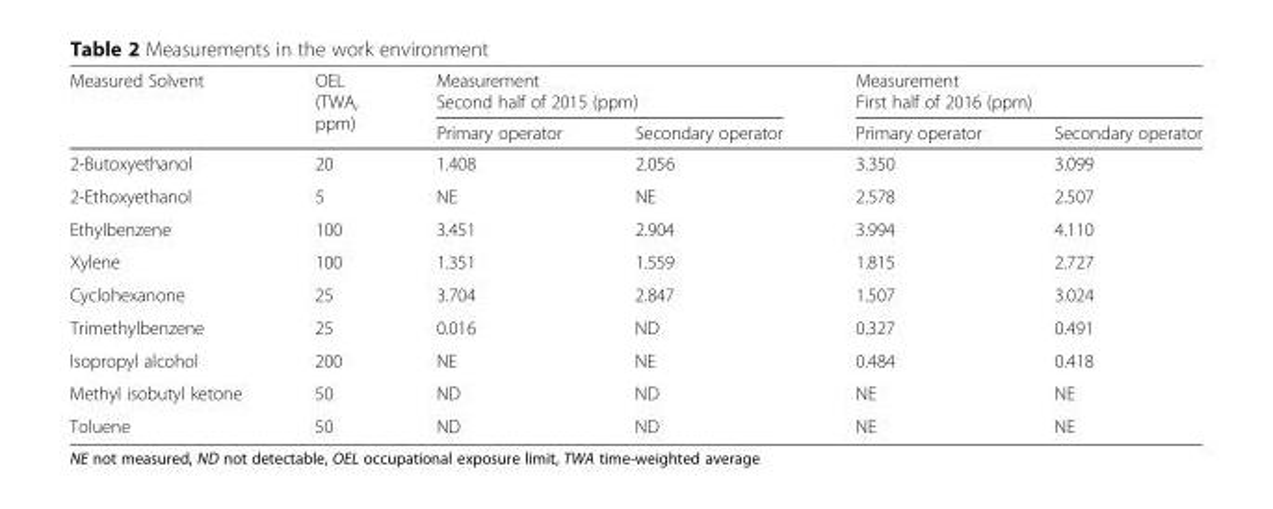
<table><thead><tr><td rowspan="2">Measured Solvent</td><td rowspan="2">OEL (TWA, ppm)</td><td colspan="2">Measurement Second half of 2015 (ppm)</td><td colspan="2">Measurement First half of 2016 (ppm)</td></tr><tr><td>Primary operator</td><td>Secondary operator</td><td>Primary operator</td><td>Secondary operator</td></tr></thead><tbody><tr><td>2-Butoxyethanol</td><td>20</td><td>1.408</td><td>2.056</td><td>3.350</td><td>3.099</td></tr><tr><td>2-Ethoxyethanol</td><td>5</td><td>NE</td><td>NE</td><td>2.578</td><td>2.507</td></tr><tr><td>Ethylbenzene</td><td>100</td><td>3.451</td><td>2.904</td><td>3.994</td><td>4.110</td></tr><tr><td>Xylene</td><td>100</td><td>1.351</td><td>1.559</td><td>1.815</td><td>2.727</td></tr><tr><td>Cyclohexanone</td><td>25</td><td>3.704</td><td>2.847</td><td>1.507</td><td>3.024</td></tr><tr><td>Trimethylbenzene</td><td>25</td><td>0.016</td><td>ND</td><td>0.327</td><td>0.491</td></tr><tr><td>Isopropyl alcohol</td><td>200</td><td>NE</td><td>NE</td><td>0.484</td><td>0.418</td></tr><tr><td>Methyl isobutyl ketone</td><td>50</td><td>ND</td><td>ND</td><td>NE</td><td>NE</td></tr><tr><td>Toluene</td><td>50</td><td>ND</td><td>ND</td><td>NE</td><td>NE</td></tr></tbody></table>